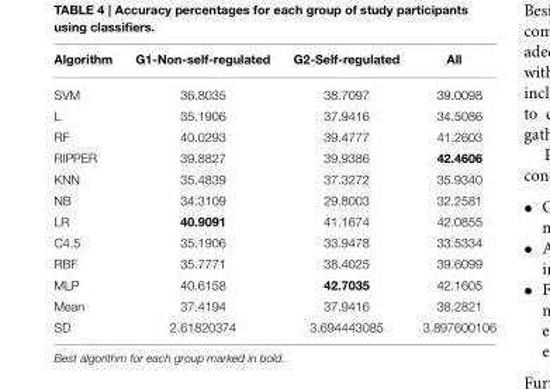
<table><thead><tr><td>Algorithm</td><td>G1-Non-self-regulated</td><td>G2-Self-regulated</td><td>All</td></tr></thead><tbody><tr><td>SVM</td><td>36.8035</td><td>38.7097</td><td>39.0098</td></tr><tr><td>L</td><td>35.1906</td><td>37.9416</td><td>34.5086</td></tr><tr><td>RF</td><td>40.0293</td><td>39.4777</td><td>41.2603</td></tr><tr><td>RIPPER</td><td>39.8827</td><td>39.9386</td><td>42.4606</td></tr><tr><td>KNN</td><td>35.4839</td><td>37.3272</td><td>35.9340</td></tr><tr><td>NB</td><td>34.3109</td><td>29.8003</td><td>32.2581</td></tr><tr><td>LR</td><td>40.9091</td><td>41.1674</td><td>42.0855</td></tr><tr><td>C4.5</td><td>35.1906</td><td>33.9478</td><td>33.5334</td></tr><tr><td>RBF</td><td>35.7771</td><td>38.4025</td><td>39.6099</td></tr><tr><td>MLP</td><td>40.6158</td><td>42.7035</td><td>42.1605</td></tr><tr><td>Mean</td><td>37.4194</td><td>37.9416</td><td>38.2821</td></tr><tr><td>SD</td><td>2.61820374</td><td>3.694443085</td><td>3.897600106</td></tr></tbody></table>